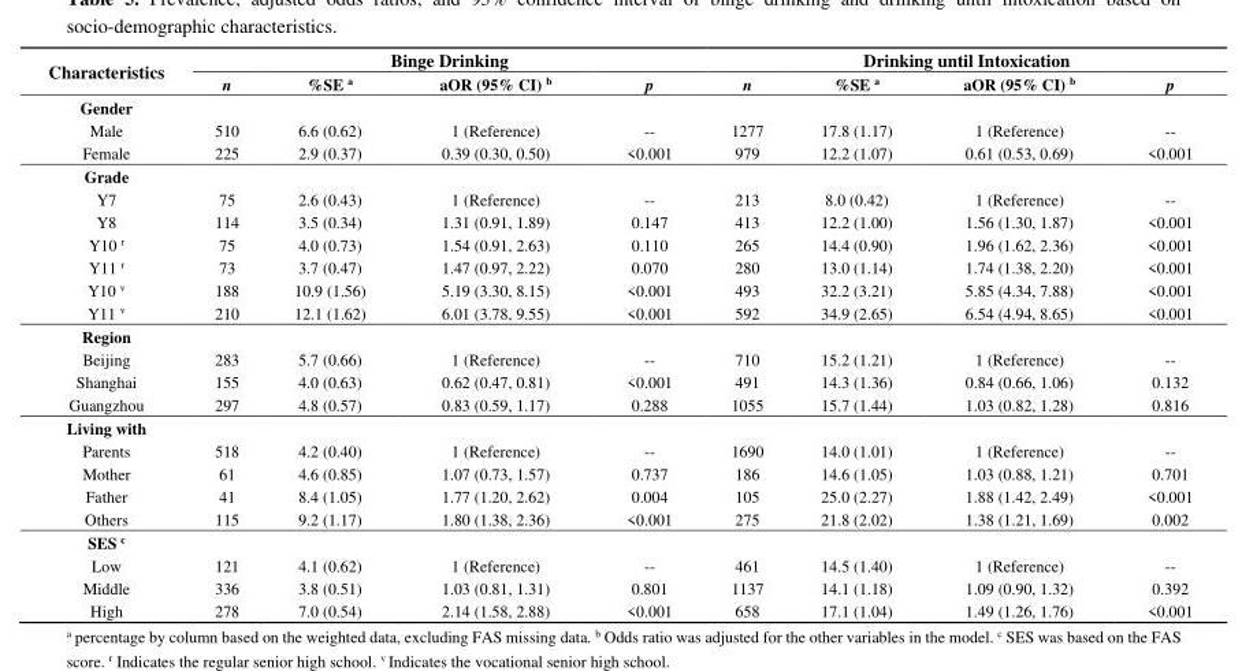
<table><thead><tr><td rowspan="2">Characteristics</td><td colspan="4">Binge Drinking</td><td colspan="4">Drinking until Intoxication</td></tr><tr><td>n</td><td>%SE <sup>a</sup></td><td>aOR (95% CI) <sup>b</sup></td><td>p</td><td>n</td><td>%SE <sup>a</sup></td><td>aOR (95% CI) <sup>b</sup></td><td>p</td></tr></thead><tbody><tr><td colspan="9">Gender</td></tr><tr><td>Male</td><td>510</td><td>6.6 (0.62)</td><td>1 (Reference)</td><td>--</td><td>1277</td><td>17.8 (1.17)</td><td>1 (Reference)</td><td>--</td></tr><tr><td>Female</td><td>225</td><td>2.9 (0.37)</td><td>0.39 (0.30, 0.50)</td><td>&lt;0.001</td><td>979</td><td>12.2 (1.07)</td><td>0.61 (0.53, 0.69)</td><td>&lt;0.001</td></tr><tr><td colspan="9">Grade</td></tr><tr><td>Y7</td><td>75</td><td>2.6 (0.43)</td><td>1 (Reference)</td><td>--</td><td>213</td><td>8.0 (0.42)</td><td>1 (Reference)</td><td>--</td></tr><tr><td>Y8</td><td>114</td><td>3.5 (0.34)</td><td>1.31 (0.91, 1.89)</td><td>0.147</td><td>413</td><td>12.2 (1.00)</td><td>1.56 (1.30, 1.87)</td><td>&lt;0.001</td></tr><tr><td>Y10 <sup>r</sup></td><td>75</td><td>4.0 (0.73)</td><td>1.54 (0.91, 2.63)</td><td>0.110</td><td>265</td><td>14.4 (0.90)</td><td>1.96 (1.62, 2.36)</td><td>&lt;0.001</td></tr><tr><td>Y11 <sup>r</sup></td><td>73</td><td>3.7 (0.47)</td><td>1.47 (0.97, 2.22)</td><td>0.070</td><td>280</td><td>13.0 (1.14)</td><td>1.74 (1.38, 2.20)</td><td>&lt;0.001</td></tr><tr><td>Y10 <sup>v</sup></td><td>188</td><td>10.9 (1.56)</td><td>5.19 (3.30, 8.15)</td><td>&lt;0.001</td><td>493</td><td>32.2 (3.21)</td><td>5.85 (4.34, 7.88)</td><td>&lt;0.001</td></tr><tr><td>Y11 <sup>v</sup></td><td>210</td><td>12.1 (1.62)</td><td>6.01 (3.78, 9.55)</td><td>&lt;0.001</td><td>592</td><td>34.9 (2.65)</td><td>6.54 (4.94, 8.65)</td><td>&lt;0.001</td></tr><tr><td colspan="9">Region</td></tr><tr><td>Beijing</td><td>283</td><td>5.7 (0.66)</td><td>1 (Reference)</td><td>--</td><td>710</td><td>15.2 (1.21)</td><td>1 (Reference)</td><td>--</td></tr><tr><td>Shanghai</td><td>155</td><td>4.0 (0.63)</td><td>0.62 (0.47, 0.81)</td><td>&lt;0.001</td><td>491</td><td>14.3 (1.36)</td><td>0.84 (0.66, 1.06)</td><td>0.132</td></tr><tr><td>Guangzhou</td><td>297</td><td>4.8 (0.57)</td><td>0.83 (0.59, 1.17)</td><td>0.288</td><td>1055</td><td>15.7 (1.44)</td><td>1.03 (0.82, 1.28)</td><td>0.816</td></tr><tr><td colspan="9">Living with</td></tr><tr><td>Parents</td><td>518</td><td>4.2 (0.40)</td><td>1 (Reference)</td><td>--</td><td>1690</td><td>14.0 (1.01)</td><td>1 (Reference)</td><td>--</td></tr><tr><td>Mother</td><td>61</td><td>4.6 (0.85)</td><td>1.07 (0.73, 1.57)</td><td>0.737</td><td>186</td><td>14.6 (1.05)</td><td>1.03 (0.88, 1.21)</td><td>0.701</td></tr><tr><td>Father</td><td>41</td><td>8.4 (1.05)</td><td>1.77 (1.20, 2.62)</td><td>0.004</td><td>105</td><td>25.0 (2.27)</td><td>1.88 (1.42, 2.49)</td><td>&lt;0.001</td></tr><tr><td>Others</td><td>115</td><td>9.2 (1.17)</td><td>1.80 (1.38, 2.36)</td><td>&lt;0.001</td><td>275</td><td>21.8 (2.02)</td><td>1.38 (1.21, 1.69)</td><td>0.002</td></tr><tr><td colspan="9">SES <sup>c</sup></td></tr><tr><td>Low</td><td>121</td><td>4.1 (0.62)</td><td>1 (Reference)</td><td>--</td><td>461</td><td>14.5 (1.40)</td><td>1 (Reference)</td><td>--</td></tr><tr><td>Middle</td><td>336</td><td>3.8 (0.51)</td><td>1.03 (0.81, 1.31)</td><td>0.801</td><td>1137</td><td>14.1 (1.18)</td><td>1.09 (0.90, 1.32)</td><td>0.392</td></tr><tr><td>High</td><td>278</td><td>7.0 (0.54)</td><td>2.14 (1.58, 2.88)</td><td>&lt;0.001</td><td>658</td><td>17.1 (1.04)</td><td>1.49 (1.26, 1.76)</td><td>&lt;0.001</td></tr></tbody></table>